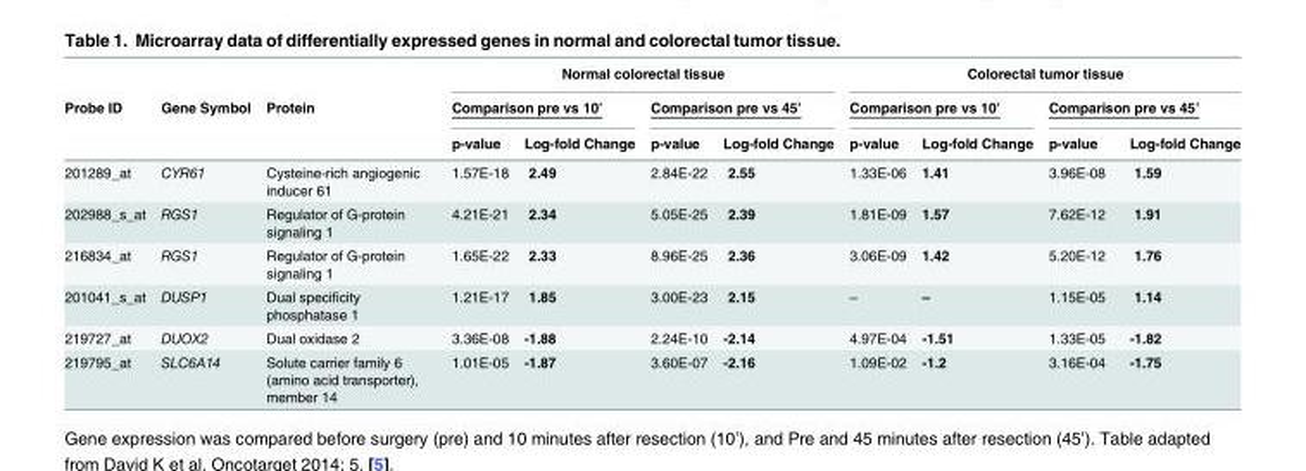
<table><thead><tr><td rowspan="3">Probe ID</td><td rowspan="3">Gene Symbol</td><td rowspan="3">Protein</td><td colspan="4">Normal colorectal tissue</td><td colspan="4">Colorectal tumor tissue</td></tr><tr><td colspan="2">Comparison pre vs 10’</td><td colspan="2">Comparison pre vs 45’</td><td colspan="2">Comparison pre vs 10’</td><td colspan="2">Comparison pre vs 45’</td></tr><tr><td>p-value</td><td>Log-fold Change</td><td>p-value</td><td>Log-fold Change</td><td>p-value</td><td>Log-fold Change</td><td>p-value</td><td>Log-fold Change</td></tr></thead><tbody><tr><td>201289_at</td><td>CYR61</td><td>Cysteine-rich angiogenic inducer 61</td><td>1.57E-18</td><td>2.49</td><td>2.84E-22</td><td>2.55</td><td>1.33E-06</td><td>1.41</td><td>3.96E-08</td><td>1.59</td></tr><tr><td>202988_s_at</td><td>RGS1</td><td>Regulator of G-protein signaling 1</td><td>4.21E-21</td><td>2.34</td><td>5.05E-25</td><td>2.39</td><td>1.81E-09</td><td>1.57</td><td>7.62E-12</td><td>1.91</td></tr><tr><td>216834_at</td><td>RGS1</td><td>Regulator of G-protein signaling 1</td><td>1.65E-22</td><td>2.33</td><td>8.96E-25</td><td>2.36</td><td>3.06E-09</td><td>1.42</td><td>5.20E-12</td><td>1.76</td></tr><tr><td>201041_s_at</td><td>DUSP1</td><td>Dual specificity phosphatase 1</td><td>1.21E-17</td><td>1.85</td><td>3.00E-23</td><td>2.15</td><td>–</td><td>–</td><td>1.15E-05</td><td>1.14</td></tr><tr><td>219727_at</td><td>DUOX2</td><td>Dual oxidase 2</td><td>3.36E-08</td><td>-1.88</td><td>2.24E-10</td><td>-2.14</td><td>4.97E-04</td><td>-1.51</td><td>1.33E-05</td><td>-1.82</td></tr><tr><td>219795_at</td><td>SLC6A14</td><td>Solute carrier family 6 (amino acid transporter), member 14</td><td>1.01E-05</td><td>-1.87</td><td>3.60E-07</td><td>-2.16</td><td>1.09E-02</td><td>-1.2</td><td>3.16E-04</td><td>-1.75</td></tr></tbody></table>